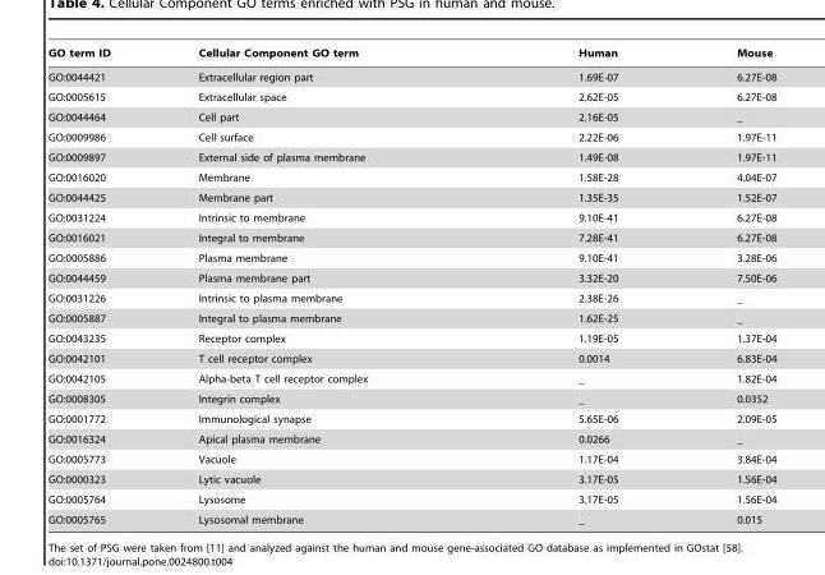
<table><thead><tr><td>GO term ID</td><td>Cellular Component GO term</td><td>Human</td><td>Mouse</td></tr></thead><tbody><tr><td>GO:0044421</td><td>Extracellular region part</td><td>1.69E-07</td><td>6.27E-08</td></tr><tr><td>GO:0005615</td><td>Extracellular space</td><td>2.62E-05</td><td>6.27E-08</td></tr><tr><td>GO:0044464</td><td>Cell part</td><td>2.16E-05</td><td>_</td></tr><tr><td>GO:0009986</td><td>Cell surface</td><td>2.22E-06</td><td>1.97E-11</td></tr><tr><td>GO:0009897</td><td>External side of plasma membrane</td><td>1.49E-08</td><td>1.97E-11</td></tr><tr><td>GO:0016020</td><td>Membrane</td><td>1.58E-28</td><td>4.04E-07</td></tr><tr><td>GO:0044425</td><td>Membrane part</td><td>1.35E-35</td><td>1.52E-07</td></tr><tr><td>GO:0031224</td><td>Intrinsic to membrane</td><td>9.10E-41</td><td>6.27E-08</td></tr><tr><td>GO:0016021</td><td>Integral to membrane</td><td>7.28E-41</td><td>6.27E-08</td></tr><tr><td>GO:0005886</td><td>Plasma membrane</td><td>9.10E-41</td><td>3.28E-06</td></tr><tr><td>GO:0044459</td><td>Plasma membrane part</td><td>3.32E-20</td><td>7.50E-06</td></tr><tr><td>GO:0031226</td><td>Intrinsic to plasma membrane</td><td>2.38E-26</td><td>_</td></tr><tr><td>GO:0005887</td><td>Integral to plasma membrane</td><td>1.62E-25</td><td>_</td></tr><tr><td>GO:0043235</td><td>Receptor complex</td><td>1.19E-05</td><td>1.37E-04</td></tr><tr><td>GO:0042101</td><td>T cell receptor complex</td><td>0.0014</td><td>6.83E-04</td></tr><tr><td>GO:0042105</td><td>Alpha-beta T cell receptor complex</td><td>_</td><td>1.82E-04</td></tr><tr><td>GO:0008305</td><td>Integrin complex</td><td>_</td><td>0.0352</td></tr><tr><td>GO:0001772</td><td>Immunological synapse</td><td>5.65E-06</td><td>2.09E-05</td></tr><tr><td>GO:0016324</td><td>Apical plasma membrane</td><td>0.0266</td><td>_</td></tr><tr><td>GO:0005773</td><td>Vacuole</td><td>1.17E-04</td><td>3.84E-04</td></tr><tr><td>GO:0000323</td><td>Lytic vacuole</td><td>3.17E-05</td><td>1.56E-04</td></tr><tr><td>GO:0005764</td><td>Lysosome</td><td>3.17E-05</td><td>1.56E-04</td></tr><tr><td>GO:0005765</td><td>Lysosomal membrane</td><td>_</td><td>0.015</td></tr></tbody></table>